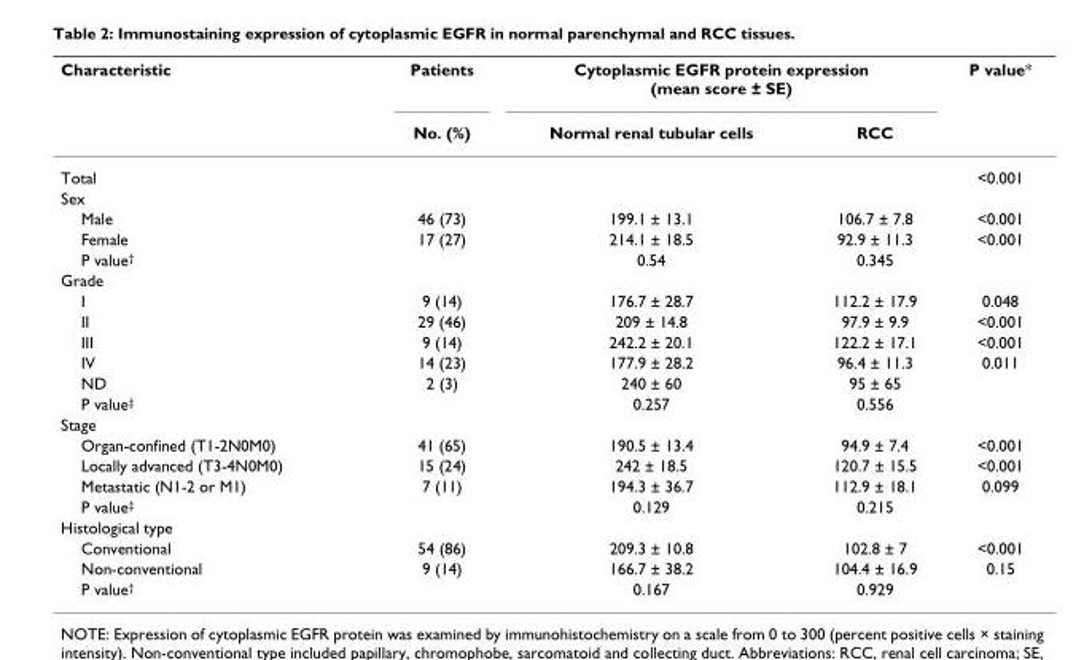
<table><thead><tr><td rowspan="2">Characteristic</td><td rowspan="2">Patients No. (%)</td><td colspan="2">Cytoplasmic EGFR protein expression (mean score ± SE)</td><td rowspan="2">P value*</td></tr><tr><td>Normal renal tubular cells</td><td>RCC</td></tr></thead><tbody><tr><td>Total</td><td></td><td></td><td></td><td>&lt;0.001</td></tr><tr><td colspan="5">Sex</td></tr><tr><td>Male</td><td>46 (73)</td><td>199.1 ± 13.1</td><td>106.7 ± 7.8</td><td>&lt;0.001</td></tr><tr><td>Female</td><td>17 (27)</td><td>214.1 ± 18.5</td><td>92.9 ± 11.3</td><td>&lt;0.001</td></tr><tr><td>P value<sup>†</sup></td><td></td><td>0.54</td><td>0.345</td><td></td></tr><tr><td colspan="5">Grade</td></tr><tr><td>I</td><td>9 (14)</td><td>176.7 ± 28.7</td><td>112.2 ± 17.9</td><td>0.048</td></tr><tr><td>II</td><td>29 (46)</td><td>209 ± 14.8</td><td>97.9 ± 9.9</td><td>&lt;0.001</td></tr><tr><td>III</td><td>9 (14)</td><td>242.2 ± 20.1</td><td>122.2 ± 17.1</td><td>&lt;0.001</td></tr><tr><td>IV</td><td>14 (23)</td><td>177.9 ± 28.2</td><td>96.4 ± 11.3</td><td>0.011</td></tr><tr><td>ND</td><td>2 (3)</td><td>240 ± 60</td><td>95 ± 65</td><td></td></tr><tr><td>P value<sup>‡</sup></td><td></td><td>0.257</td><td>0.556</td><td></td></tr><tr><td colspan="5">Stage</td></tr><tr><td>Organ-confined (T1-2N0M0)</td><td>41 (65)</td><td>190.5 ± 13.4</td><td>94.9 ± 7.4</td><td>&lt;0.001</td></tr><tr><td>Locally advanced (T3-4N0M0)</td><td>15 (24)</td><td>242 ± 18.5</td><td>120.7 ± 15.5</td><td>&lt;0.001</td></tr><tr><td>Metastatic (N1-2 or M1)</td><td>7 (11)</td><td>194.3 ± 36.7</td><td>112.9 ± 18.1</td><td>0.099</td></tr><tr><td>P value<sup>‡</sup></td><td></td><td>0.129</td><td>0.215</td><td></td></tr><tr><td colspan="5">Histological type</td></tr><tr><td>Conventional</td><td>54 (86)</td><td>209.3 ± 10.8</td><td>102.8 ± 7</td><td>&lt;0.001</td></tr><tr><td>Non-conventional</td><td>9 (14)</td><td>166.7 ± 38.2</td><td>104.4 ± 16.9</td><td>0.15</td></tr><tr><td>P value<sup>†</sup></td><td></td><td>0.167</td><td>0.929</td><td></td></tr></tbody></table>